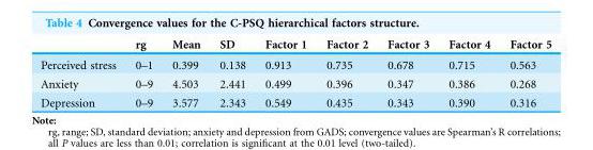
<table><thead><tr><td></td><td>rg</td><td>Mean</td><td>SD</td><td>Factor 1</td><td>Factor 2</td><td>Factor 3</td><td>Factor 4</td><td>Factor 5</td></tr></thead><tbody><tr><td>Perceived stress</td><td>0–1</td><td>0.399</td><td>0.138</td><td>0.913</td><td>0.735</td><td>0.678</td><td>0.715</td><td>0.563</td></tr><tr><td>Anxiety</td><td>0–9</td><td>4.503</td><td>2.441</td><td>0.499</td><td>0.396</td><td>0.347</td><td>0.386</td><td>0.268</td></tr><tr><td>Depression</td><td>0–9</td><td>3.577</td><td>2.343</td><td>0.549</td><td>0.435</td><td>0.343</td><td>0.390</td><td>0.316</td></tr></tbody></table>